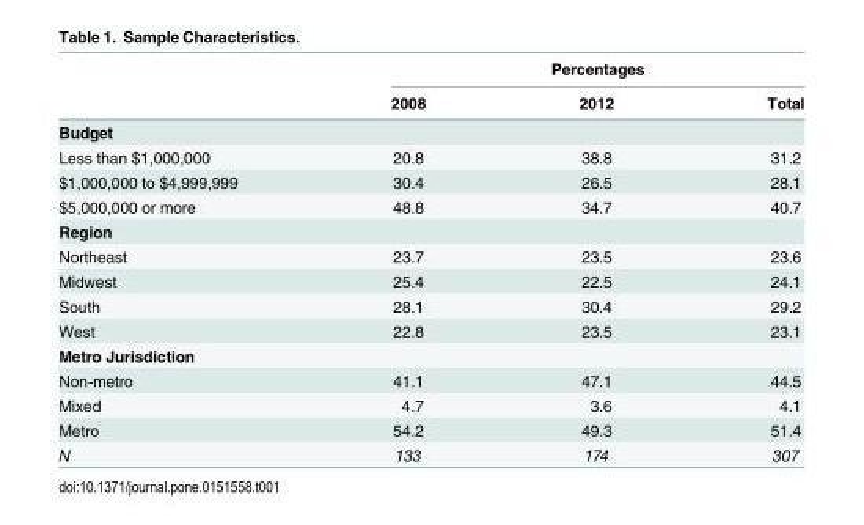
<table><thead><tr><td rowspan="2"></td><td colspan="3">Percentages</td></tr><tr><td>2008</td><td>2012</td><td>Total</td></tr></thead><tbody><tr><td colspan="4">Budget</td></tr><tr><td>Less than $1,000,000</td><td>20.8</td><td>38.8</td><td>31.2</td></tr><tr><td>$1,000,000 to $4,999,999</td><td>30.4</td><td>26.5</td><td>28.1</td></tr><tr><td>$5,000,000 or more</td><td>48.8</td><td>34.7</td><td>40.7</td></tr><tr><td colspan="4">Region</td></tr><tr><td>Northeast</td><td>23.7</td><td>23.5</td><td>23.6</td></tr><tr><td>Midwest</td><td>25.4</td><td>22.5</td><td>24.1</td></tr><tr><td>South</td><td>28.1</td><td>30.4</td><td>29.2</td></tr><tr><td>West</td><td>22.8</td><td>23.5</td><td>23.1</td></tr><tr><td colspan="4">Metro Jurisdiction</td></tr><tr><td>Non-metro</td><td>41.1</td><td>47.1</td><td>44.5</td></tr><tr><td>Mixed</td><td>4.7</td><td>3.6</td><td>4.1</td></tr><tr><td>Metro</td><td>54.2</td><td>49.3</td><td>51.4</td></tr><tr><td>N</td><td>133</td><td>174</td><td>307</td></tr></tbody></table>